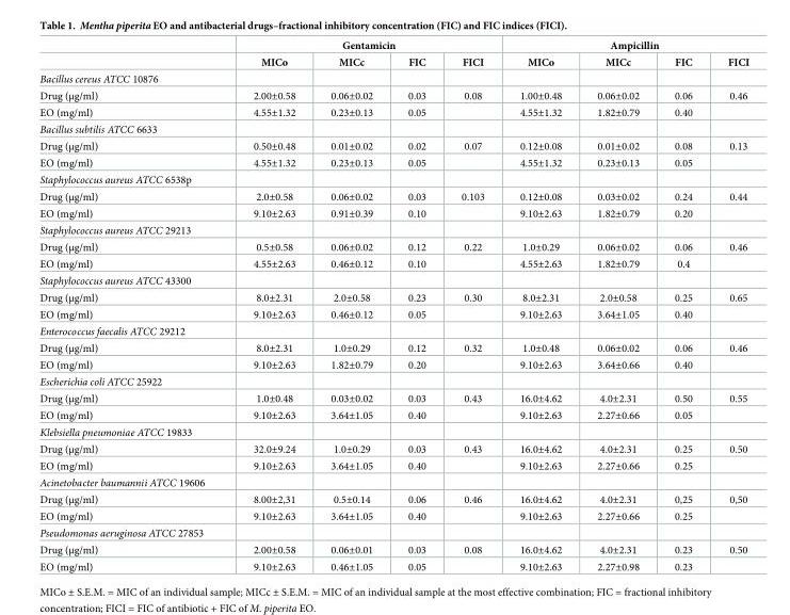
<table><thead><tr><td rowspan="2"></td><td colspan="4">Gentamicin</td><td colspan="4">Ampicillin</td></tr><tr><td>MICo</td><td>MICc</td><td>FIC</td><td>FICI</td><td>MICo</td><td>MICc</td><td>FIC</td><td>FICI</td></tr></thead><tbody><tr><td colspan="9">Bacillus cereus ATCC 10876</td></tr><tr><td>Drug (μg/ml)</td><td>2.00±0.58</td><td>0.06±0.02</td><td>0.03</td><td>0.08</td><td>1.00±0.48</td><td>0.06±0.02</td><td>0.06</td><td>0.46</td></tr><tr><td>EO (mg/ml)</td><td>4.55±1.32</td><td>0.23±0.13</td><td>0.05</td><td></td><td>4.55±1.32</td><td>1.82±0.79</td><td>0.40</td><td></td></tr><tr><td colspan="9">Bacillus subtilis ATCC 6633</td></tr><tr><td>Drug (μg/ml)</td><td>0.50±0.48</td><td>0.01±0.02</td><td>0.02</td><td>0.07</td><td>0.12±0.08</td><td>0.01±0.02</td><td>0.08</td><td>0.13</td></tr><tr><td>EO (mg/ml)</td><td>4.55±1.32</td><td>0.23±0.13</td><td>0.05</td><td></td><td>4.55±1.32</td><td>0.23±0.13</td><td>0.05</td><td></td></tr><tr><td colspan="9">Staphylococcus aureus ATCC 6538p</td></tr><tr><td>Drug (μg/ml)</td><td>2.0±0.58</td><td>0.06±0.02</td><td>0.03</td><td>0.103</td><td>0.12±0.08</td><td>0.03±0.02</td><td>0.24</td><td>0.44</td></tr><tr><td>EO (mg/ml)</td><td>9.10±2.63</td><td>0.91±0.39</td><td>0.10</td><td></td><td>9.10±2.63</td><td>1.82±0.79</td><td>0.20</td><td></td></tr><tr><td colspan="9">Staphylococcus aureus ATCC 29213</td></tr><tr><td>Drug (μg/ml)</td><td>0.5±0.58</td><td>0.06±0.02</td><td>0.12</td><td>0.22</td><td>1.0±0.29</td><td>0.06±0.02</td><td>0.06</td><td>0.46</td></tr><tr><td>EO (mg/ml)</td><td>4.55±2.63</td><td>0.46±0.12</td><td>0.10</td><td></td><td>4.55±2.63</td><td>1.82±0.79</td><td>0.4</td><td></td></tr><tr><td colspan="9">Staphylococcus aureus ATCC 43300</td></tr><tr><td>Drug (μg/ml)</td><td>8.0±2.31</td><td>2.0±0.58</td><td>0.23</td><td>0.30</td><td>8.0±2.31</td><td>2.0±0.58</td><td>0.25</td><td>0.65</td></tr><tr><td>EO (mg/ml)</td><td>9.10±2.63</td><td>0.46±0.12</td><td>0.05</td><td></td><td>9.10±2.63</td><td>3.64±1.05</td><td>0.40</td><td></td></tr><tr><td colspan="9">Enterococcus faecalis ATCC 29212</td></tr><tr><td>Drug (μg/ml)</td><td>8.0±2.31</td><td>1.0±0.29</td><td>0.12</td><td>0.32</td><td>1.0±0.48</td><td>0.06±0.02</td><td>0.06</td><td>0.46</td></tr><tr><td>EO (mg/ml)</td><td>9.10±2.63</td><td>1.82±0.79</td><td>0.20</td><td></td><td>9.10±2.63</td><td>3.64±0.66</td><td>0.40</td><td></td></tr><tr><td colspan="9">Escherichia coli ATCC 25922</td></tr><tr><td>Drug (μg/ml)</td><td>1.0±0.48</td><td>0.03±0.02</td><td>0.03</td><td>0.43</td><td>16.0±4.62</td><td>4.0±2.31</td><td>0.50</td><td>0.55</td></tr><tr><td>EO (mg/ml)</td><td>9.10±2.63</td><td>3.64±1.05</td><td>0.40</td><td></td><td>9.10±2.63</td><td>2.27±0.66</td><td>0.05</td><td></td></tr><tr><td colspan="9">Klebsiella pneumoniae ATCC 19833</td></tr><tr><td>Drug (μg/ml)</td><td>32.0±9.24</td><td>1.0±0.29</td><td>0.03</td><td>0.43</td><td>16.0±4.62</td><td>4.0±2.31</td><td>0.25</td><td>0.50</td></tr><tr><td>EO (mg/ml)</td><td>9.10±2.63</td><td>3.64±1.05</td><td>0.40</td><td></td><td>9.10±2.63</td><td>2.27±0.66</td><td>0.25</td><td></td></tr><tr><td colspan="9">Acinetobacter baumannii ATCC 19606</td></tr><tr><td>Drug (μg/ml)</td><td>8.00±2,31</td><td>0.5±0.14</td><td>0.06</td><td>0.46</td><td>16.0±4.62</td><td>4.0±2.31</td><td>0,25</td><td>0,50</td></tr><tr><td>EO (mg/ml)</td><td>9.10±2.63</td><td>3.64±1.05</td><td>0.40</td><td></td><td>9.10±2.63</td><td>2.27±0.66</td><td>0.25</td><td></td></tr><tr><td colspan="9">Pseudomonas aeruginosa ATCC 27853</td></tr><tr><td>Drug (μg/ml)</td><td>2.00±0.58</td><td>0.06±0.01</td><td>0.03</td><td>0.08</td><td>16.0±4.62</td><td>4.0±2.31</td><td>0.23</td><td>0.50</td></tr><tr><td>EO (mg/ml)</td><td>9.10±2.63</td><td>0.46±1.05</td><td>0.05</td><td></td><td>9.10±2.63</td><td>2.27±0.98</td><td>0.23</td><td></td></tr></tbody></table>